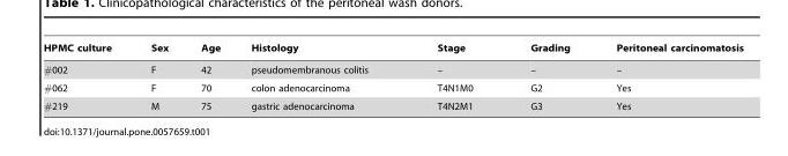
<table><thead><tr><td>HPMC culture</td><td>Sex</td><td>Age</td><td>Histology</td><td>Stage</td><td>Grading</td><td>Peritoneal carcinomatosis</td></tr></thead><tbody><tr><td>#002</td><td>F</td><td>42</td><td>pseudomembranous colitis</td><td>–</td><td>–</td><td>–</td></tr><tr><td>#062</td><td>F</td><td>70</td><td>colon adenocarcinoma</td><td>T4N1M0</td><td>G2</td><td>Yes</td></tr><tr><td>#219</td><td>M</td><td>75</td><td>gastric adenocarcinoma</td><td>T4N2M1</td><td>G3</td><td>Yes</td></tr></tbody></table>